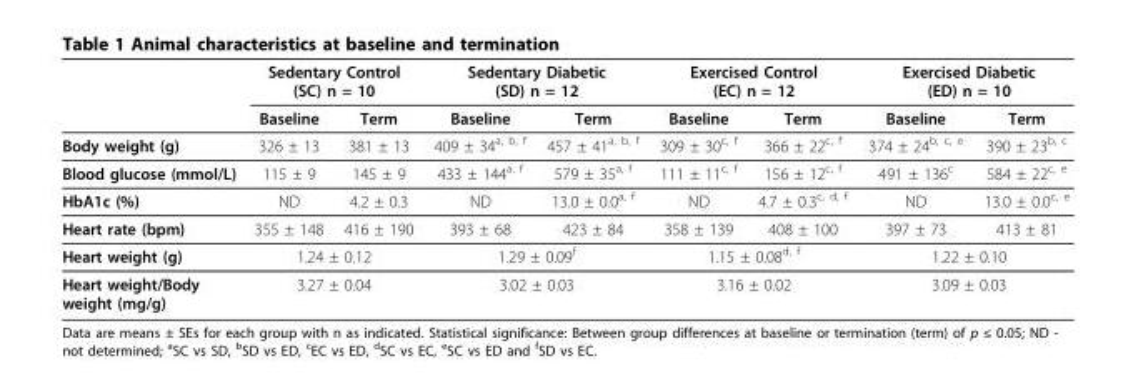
<table><thead><tr><td rowspan="2"></td><td colspan="2">Sedentary Control (SC) n = 10</td><td colspan="2">Sedentary Diabetic (SD) n = 12</td><td colspan="2">Exercised Control (EC) n = 12</td><td colspan="2">Exercised Diabetic (ED) n = 10</td></tr><tr><td>Baseline</td><td>Term</td><td>Baseline</td><td>Term</td><td>Baseline</td><td>Term</td><td>Baseline</td><td>Term</td></tr></thead><tbody><tr><td>Body weight (g)</td><td>326 ± 13</td><td>381 ± 13</td><td>409 ± 34<sup>a, b, f</sup></td><td>457 ± 41<sup>a, b, f</sup></td><td>309 ± 30<sup>c, f</sup></td><td>366 ± 22<sup>c, f</sup></td><td>374 ± 24<sup>b, c, e</sup></td><td>390 ± 23<sup>b, c</sup></td></tr><tr><td>Blood glucose (mmol/L)</td><td>115 ± 9</td><td>145 ± 9</td><td>433 ± 144<sup>a, f</sup></td><td>579 ± 35<sup>a, f</sup></td><td>111 ± 11<sup>c, f</sup></td><td>156 ± 12<sup>c, f</sup></td><td>491 ± 136<sup>c</sup></td><td>584 ± 22<sup>c, e</sup></td></tr><tr><td>HbA1c (%)</td><td>ND</td><td>4.2 ± 0.3</td><td>ND</td><td>13.0 ± 0.0<sup>a, f</sup></td><td>ND</td><td>4.7 ± 0.3<sup>c, d, f</sup></td><td>ND</td><td>13.0 ± 0.0<sup>c, e</sup></td></tr><tr><td>Heart rate (bpm)</td><td>355 ± 148</td><td>416 ± 190</td><td>393 ± 68</td><td>423 ± 84</td><td>358 ± 139</td><td>408 ± 100</td><td>397 ± 73</td><td>413 ± 81</td></tr><tr><td>Heart weight (g)</td><td colspan="2">1.24 ± 0.12</td><td colspan="2">1.29 ± 0.09<sup>f</sup></td><td colspan="2">1.15 ± 0.08<sup>d, f</sup></td><td colspan="2">1.22 ± 0.10</td></tr><tr><td>Heart weight/Body weight (mg/g)</td><td colspan="2">3.27 ± 0.04</td><td colspan="2">3.02 ± 0.03</td><td colspan="2">3.16 ± 0.02</td><td colspan="2">3.09 ± 0.03</td></tr></tbody></table>